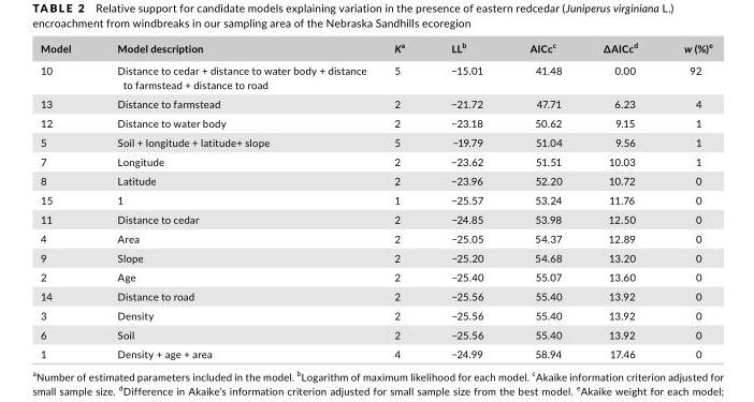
<table><thead><tr><td>Model</td><td>Model description</td><td>Ka</td><td>LL<sup>b</sup></td><td>AICc<sup>c</sup></td><td>∆AICc<sup>d</sup></td><td>w (%)<sup>e</sup></td></tr></thead><tbody><tr><td>10</td><td>Distance to cedar + distance to water body + distance to farmstead + distance to road</td><td>5</td><td>−15.01</td><td>41.48</td><td>0.00</td><td>92</td></tr><tr><td>13</td><td>Distance to farmstead</td><td>2</td><td>−21.72</td><td>47.71</td><td>6.23</td><td>4</td></tr><tr><td>12</td><td>Distance to water body</td><td>2</td><td>−23.18</td><td>50.62</td><td>9.15</td><td>1</td></tr><tr><td>5</td><td>Soil + longitude + latitude+ slope</td><td>5</td><td>−19.79</td><td>51.04</td><td>9.56</td><td>1</td></tr><tr><td>7</td><td>Longitude</td><td>2</td><td>−23.62</td><td>51.51</td><td>10.03</td><td>1</td></tr><tr><td>8</td><td>Latitude</td><td>2</td><td>−23.96</td><td>52.20</td><td>10.72</td><td>0</td></tr><tr><td>15</td><td>1</td><td>1</td><td>−25.57</td><td>53.24</td><td>11.76</td><td>0</td></tr><tr><td>11</td><td>Distance to cedar</td><td>2</td><td>−24.85</td><td>53.98</td><td>12.50</td><td>0</td></tr><tr><td>4</td><td>Area</td><td>2</td><td>−25.05</td><td>54.37</td><td>12.89</td><td>0</td></tr><tr><td>9</td><td>Slope</td><td>2</td><td>−25.20</td><td>54.68</td><td>13.20</td><td>0</td></tr><tr><td>2</td><td>Age</td><td>2</td><td>−25.40</td><td>55.07</td><td>13.60</td><td>0</td></tr><tr><td>14</td><td>Distance to road</td><td>2</td><td>−25.56</td><td>55.40</td><td>13.92</td><td>0</td></tr><tr><td>3</td><td>Density</td><td>2</td><td>−25.56</td><td>55.40</td><td>13.92</td><td>0</td></tr><tr><td>6</td><td>Soil</td><td>2</td><td>−25.56</td><td>55.40</td><td>13.92</td><td>0</td></tr><tr><td>1</td><td>Density + age + area</td><td>4</td><td>−24.99</td><td>58.94</td><td>17.46</td><td>0</td></tr></tbody></table>